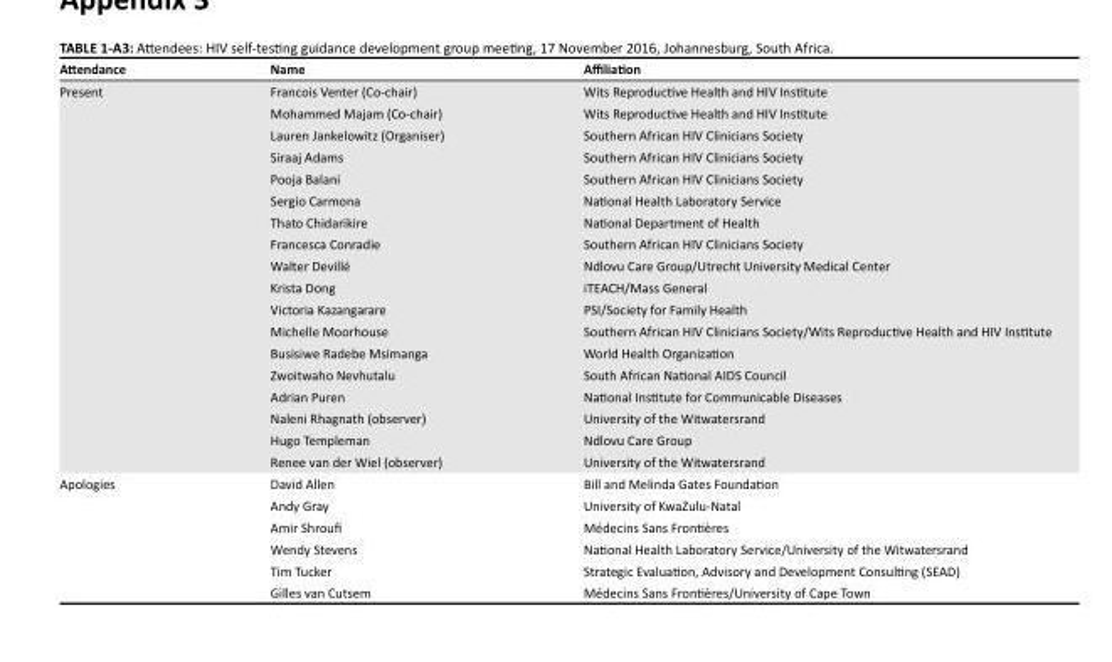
<table><thead><tr><td>Attendance</td><td>Name</td><td>Affiliation</td></tr></thead><tbody><tr><td rowspan="18">Present</td><td>Francois Venter (Co-chair)</td><td>Wits Reproductive Health and HIV Institute</td></tr><tr><td>Mohammed Majam (Co-chair)</td><td>Wits Reproductive Health and HIV Institute</td></tr><tr><td>Lauren Jankelowitz (Organiser)</td><td>Southern African HIV Clinicians Society</td></tr><tr><td>Siraaj Adams</td><td>Southern African HIV Clinicians Society</td></tr><tr><td>Pooja Balani</td><td>Southern African HIV Clinicians Society</td></tr><tr><td>Sergio Carmona</td><td>National Health Laboratory Service</td></tr><tr><td>Thato Chidarikire</td><td>National Department of Health</td></tr><tr><td>Francesca Conradie</td><td>Southern African HIV Clinicians Society</td></tr><tr><td>Walter Devillé</td><td>Ndlovu Care Group/Utrecht University Medical Center</td></tr><tr><td>Krista Dong</td><td>iTEACH/Mass General</td></tr><tr><td>Victoria Kazangarare</td><td>PSI/Society for Family Health</td></tr><tr><td>Michelle Moorhouse</td><td>Southern African HIV Clinicians Society/Wits Reproductive Health and HIV Institute</td></tr><tr><td>Busisiwe Radebe Msimanga</td><td>World Health Organization</td></tr><tr><td>Zwoitwaho Nevhutalu</td><td>South African National AIDS Council</td></tr><tr><td>Adrian Puren</td><td>National Institute for Communicable Diseases</td></tr><tr><td>Naleni Rhagnath (observer)</td><td>University of the Witwatersrand</td></tr><tr><td>Hugo Templeman</td><td>Ndlovu Care Group</td></tr><tr><td>Renee van der Wiel (observer)</td><td>University of the Witwatersrand</td></tr><tr><td rowspan="6">Apologies</td><td>David Allen</td><td>Bill and Melinda Gates Foundation</td></tr><tr><td>Andy Gray</td><td>University of KwaZulu-Natal</td></tr><tr><td>Amir Shroufi</td><td>Médecins Sans Frontières</td></tr><tr><td>Wendy Stevens</td><td>National Health Laboratory Service/University of the Witwatersrand</td></tr><tr><td>Tim Tucker</td><td>Strategic Evaluation, Advisory and Development Consulting (SEAD)</td></tr><tr><td>Gilles van Cutsem</td><td>Médecins Sans Frontières/University of Cape Town</td></tr></tbody></table>